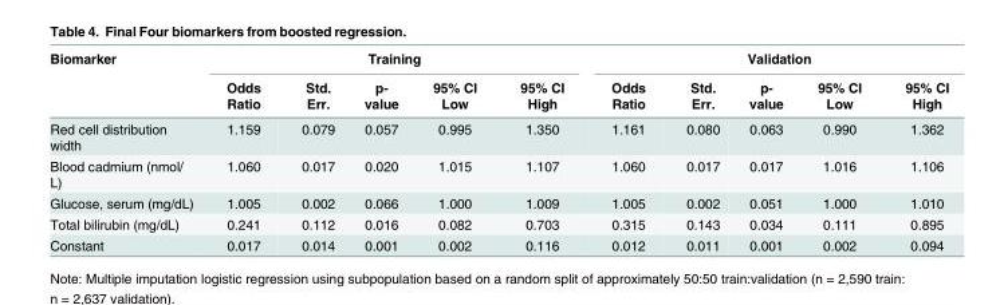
<table><thead><tr><td rowspan="2">Biomarker</td><td colspan="5">Training</td><td colspan="5">Validation</td></tr><tr><td>Odds Ratio</td><td>Std. Err.</td><td>p- value</td><td>95% CI Low</td><td>95% CI High</td><td>Odds Ratio</td><td>Std. Err.</td><td>p- value</td><td>95% CI Low</td><td>95% CI High</td></tr></thead><tbody><tr><td>Red cell distribution width</td><td>1.159</td><td>0.079</td><td>0.057</td><td>0.995</td><td>1.350</td><td>1.161</td><td>0.080</td><td>0.063</td><td>0.990</td><td>1.362</td></tr><tr><td>Blood cadmium (nmol/ L)</td><td>1.060</td><td>0.017</td><td>0.020</td><td>1.015</td><td>1.107</td><td>1.060</td><td>0.017</td><td>0.017</td><td>1.016</td><td>1.106</td></tr><tr><td>Glucose, serum (mg/dL)</td><td>1.005</td><td>0.002</td><td>0.066</td><td>1.000</td><td>1.009</td><td>1.005</td><td>0.002</td><td>0.051</td><td>1.000</td><td>1.010</td></tr><tr><td>Total bilirubin (mg/dL)</td><td>0.241</td><td>0.112</td><td>0.016</td><td>0.082</td><td>0.703</td><td>0.315</td><td>0.143</td><td>0.034</td><td>0.111</td><td>0.895</td></tr><tr><td>Constant</td><td>0.017</td><td>0.014</td><td>0.001</td><td>0.002</td><td>0.116</td><td>0.012</td><td>0.011</td><td>0.001</td><td>0.002</td><td>0.094</td></tr></tbody></table>